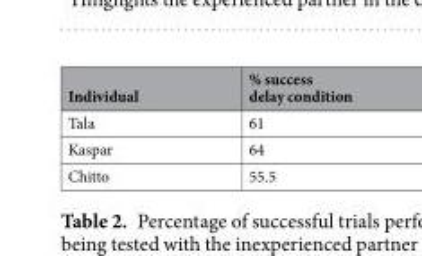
<table><thead><tr><td>Individual</td><td>% success delay condition</td></tr></thead><tbody><tr><td>Tala</td><td>61</td></tr><tr><td>Kaspar</td><td>64</td></tr><tr><td>Chitto</td><td>55.5</td></tr></tbody></table>